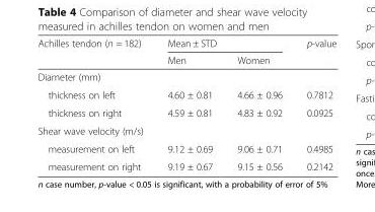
<table><thead><tr><td rowspan="2">Achilles tendon (n = 182)</td><td colspan="2">Mean ± STD</td><td rowspan="2">p-value</td></tr><tr><td>Men</td><td>Women</td></tr></thead><tbody><tr><td colspan="4">Diameter (mm)</td></tr><tr><td>thickness on left</td><td>4.60 ± 0.81</td><td>4.66 ± 0.96</td><td>0.7812</td></tr><tr><td>thickness on right</td><td>4.59 ± 0.81</td><td>4.83 ± 0.92</td><td>0.0925</td></tr><tr><td colspan="4">Shear wave velocity (m/s)</td></tr><tr><td>measurement on left</td><td>9.12 ± 0.69</td><td>9.06 ± 0.71</td><td>0.4985</td></tr><tr><td>measurement on right</td><td>9.19 ± 0.67</td><td>9.15 ± 0.56</td><td>0.2142</td></tr></tbody></table>